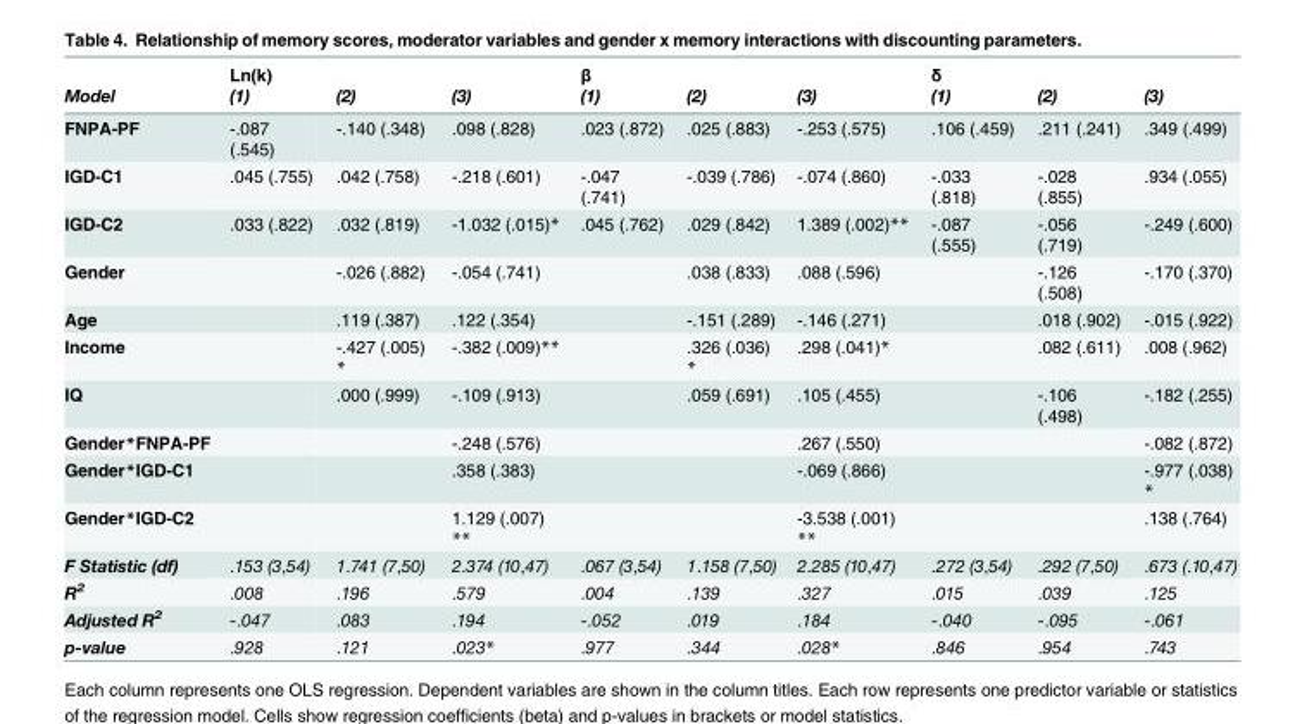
<table><thead><tr><td rowspan="2">Model</td><td rowspan="2">Ln(k) (1)</td><td rowspan="2">(2)</td><td rowspan="2">(3)</td><td rowspan="2">β (1)</td><td rowspan="2">(2)</td><td rowspan="2">(3)</td><td rowspan="2">δ (1)</td><td rowspan="2">(2)</td><td rowspan="2">(3)</td></tr><tr></tr></thead><tbody><tr><td>FNPA-PF</td><td>-.087 (.545)</td><td>-.140 (.348)</td><td>.098 (.828)</td><td>.023 (.872)</td><td>.025 (.883)</td><td>-.253 (.575)</td><td>.106 (.459)</td><td>.211 (.241)</td><td>.349 (.499)</td></tr><tr><td>IGD-C1</td><td>.045 (.755)</td><td>.042 (.758)</td><td>-.218 (.601)</td><td>-.047 (.741)</td><td>-.039 (.786)</td><td>-.074 (.860)</td><td>-.033 (.818)</td><td>-.028 (.855)</td><td>.934 (.055)</td></tr><tr><td>IGD-C2</td><td>.033 (.822)</td><td>.032 (.819)</td><td>-1.032 (.015)*</td><td>.045 (.762)</td><td>.029 (.842)</td><td>1.389 (.002)**</td><td>-.087 (.555)</td><td>-.056 (.719)</td><td>-.249 (.600)</td></tr><tr><td>Gender</td><td></td><td>-.026 (.882)</td><td>-.054 (.741)</td><td></td><td>.038 (.833)</td><td>.088 (.596)</td><td></td><td>-.126 (.508)</td><td>-.170 (.370)</td></tr><tr><td>Age</td><td></td><td>.119 (.387)</td><td>.122 (.354)</td><td></td><td>-.151 (.289)</td><td>-.146 (.271)</td><td></td><td>.018 (.902)</td><td>-.015 (.922)</td></tr><tr><td>Income</td><td></td><td>-.427 (.005) *</td><td>-.382 (.009)**</td><td></td><td>.326 (.036) *</td><td>.298 (.041)*</td><td></td><td>.082 (.611)</td><td>.008 (.962)</td></tr><tr><td>IQ</td><td></td><td>.000 (.999)</td><td>-.109 (.913)</td><td></td><td>.059 (.691)</td><td>.105 (.455)</td><td></td><td>-.106 (.498)</td><td>-.182 (.255)</td></tr><tr><td>Gender*FNPA-PF</td><td></td><td></td><td>-.248 (.576)</td><td></td><td></td><td>.267 (.550)</td><td></td><td></td><td>-.082 (.872)</td></tr><tr><td>Gender*IGD-C1</td><td></td><td></td><td>.358 (.383)</td><td></td><td></td><td>-.069 (.866)</td><td></td><td></td><td>-.977 (.038) *</td></tr><tr><td>Gender*IGD-C2</td><td></td><td></td><td>1.129 (.007) **</td><td></td><td></td><td>-3.538 (.001) **</td><td></td><td></td><td>.138 (.764)</td></tr><tr><td>F Statistic (df)</td><td>.153 (3,54)</td><td>1.741 (7,50)</td><td>2.374 (10,47)</td><td>.067 (3,54)</td><td>1.158 (7,50)</td><td>2.285 (10,47)</td><td>.272 (3,54)</td><td>.292 (7,50)</td><td>.673 (.10,47)</td></tr><tr><td>R<sup>2</sup></td><td>.008</td><td>.196</td><td>.579</td><td>.004</td><td>.139</td><td>.327</td><td>.015</td><td>.039</td><td>.125</td></tr><tr><td>Adjusted R<sup>2</sup></td><td>-.047</td><td>.083</td><td>.194</td><td>-.052</td><td>.019</td><td>.184</td><td>-.040</td><td>-.095</td><td>-.061</td></tr><tr><td>p-value</td><td>.928</td><td>.121</td><td>.023*</td><td>.977</td><td>.344</td><td>.028*</td><td>.846</td><td>.954</td><td>.743</td></tr></tbody></table>